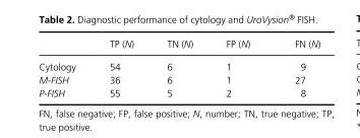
<table><thead><tr><td></td><td>TP (N)</td><td>TN (N)</td><td>FP (N)</td><td>FN (N)</td></tr></thead><tbody><tr><td>Cytology</td><td>54</td><td>6</td><td>1</td><td>9</td></tr><tr><td>M-FISH</td><td>36</td><td>6</td><td>1</td><td>27</td></tr><tr><td>P-FISH</td><td>55</td><td>5</td><td>2</td><td>8</td></tr></tbody></table>